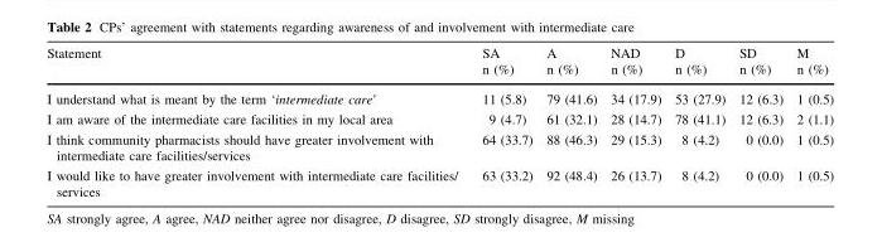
<table><thead><tr><td>Statement</td><td>SA n (%)</td><td>A n (%)</td><td>NAD n (%)</td><td>D n (%)</td><td>SD n (%)</td><td>M n (%)</td></tr></thead><tbody><tr><td>I understand what is meant by the term ‘intermediate care’</td><td>11 (5.8)</td><td>79 (41.6)</td><td>34 (17.9)</td><td>53 (27.9)</td><td>12 (6.3)</td><td>1 (0.5)</td></tr><tr><td>I am aware of the intermediate care facilities in my local area</td><td>9 (4.7)</td><td>61 (32.1)</td><td>28 (14.7)</td><td>78 (41.1)</td><td>12 (6.3)</td><td>2 (1.1)</td></tr><tr><td>I think community pharmacists should have greater involvement with intermediate care facilities/services</td><td>64 (33.7)</td><td>88 (46.3)</td><td>29 (15.3)</td><td>8 (4.2)</td><td>0 (0.0)</td><td>1 (0.5)</td></tr><tr><td>I would like to have greater involvement with intermediate care facilities/ services</td><td>63 (33.2)</td><td>92 (48.4)</td><td>26 (13.7)</td><td>8 (4.2)</td><td>0 (0.0)</td><td>1 (0.5)</td></tr></tbody></table>